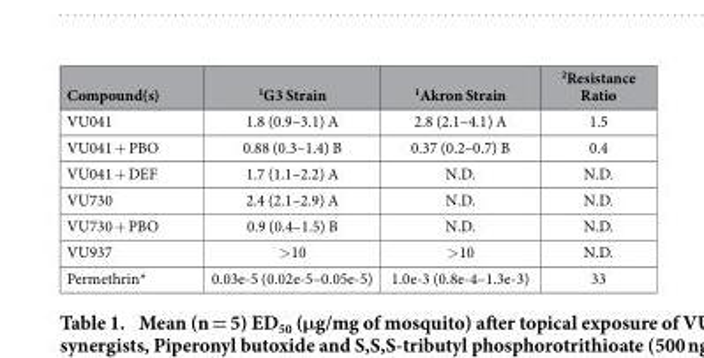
<table><thead><tr><td>Compound(s)</td><td>1G3 Strain</td><td>1Akron Strain</td><td>2Resistance Ratio</td></tr></thead><tbody><tr><td>VU041</td><td>1.8 (0.9–3.1) A</td><td>2.8 (2.1–4.1) A</td><td>1.5</td></tr><tr><td>VU041 + PBO</td><td>0.88 (0.3–1.4) B</td><td>0.37 (0.2–0.7) B</td><td>0.4</td></tr><tr><td>VU041 + DEF</td><td>1.7 (1.1–2.2) A</td><td>N.D.</td><td>N.D.</td></tr><tr><td>VU730</td><td>2.4 (2.1–2.9) A</td><td>N.D.</td><td>N.D.</td></tr><tr><td>VU730 + PBO</td><td>0.9 (0.4–1.5) B</td><td>N.D.</td><td>N.D.</td></tr><tr><td>VU937</td><td>&gt; 10</td><td>&gt; 10</td><td>N.D.</td></tr><tr><td>Permethrin*</td><td>0.03e-5 (0.02e-5–0.05e-5)</td><td>1.0e-3 (0.8e-4–1.3e-3)</td><td>33</td></tr></tbody></table>